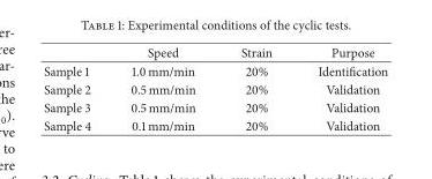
<table><thead><tr><td></td><td>Speed</td><td>Strain</td><td>Purpose</td></tr></thead><tbody><tr><td>Sample 1</td><td>1.0 mm/min</td><td>20%</td><td>Identification</td></tr><tr><td>Sample 2</td><td>0.5 mm/min</td><td>20%</td><td>Validation</td></tr><tr><td>Sample 3</td><td>0.5 mm/min</td><td>20%</td><td>Validation</td></tr><tr><td>Sample 4</td><td>0.1 mm/min</td><td>20%</td><td>Validation</td></tr></tbody></table>